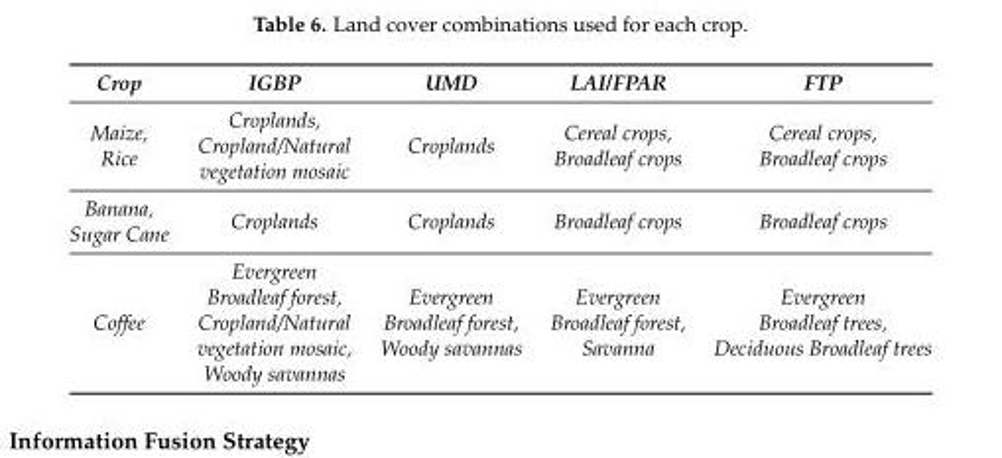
<table><thead><tr><td>Crop</td><td>IGBP</td><td>UMD</td><td>LAI/FPAR</td><td>FTP</td></tr></thead><tbody><tr><td>Maize, Rice</td><td>Croplands, Cropland/Natural vegetation mosaic</td><td>Croplands</td><td>Cereal crops, Broadleaf crops</td><td>Cereal crops, Broadleaf crops</td></tr><tr><td>Banana, Sugar Cane</td><td>Croplands</td><td>Croplands</td><td>Broadleaf crops</td><td>Broadleaf crops</td></tr><tr><td>Coffee</td><td>Evergreen Broadleaf forest, Cropland/Natural vegetation mosaic, Woody savannas</td><td>Evergreen Broadleaf forest, Woody savannas</td><td>Evergreen Broadleaf forest, Savanna</td><td>Evergreen Broadleaf trees, Deciduous Broadleaf trees</td></tr></tbody></table>